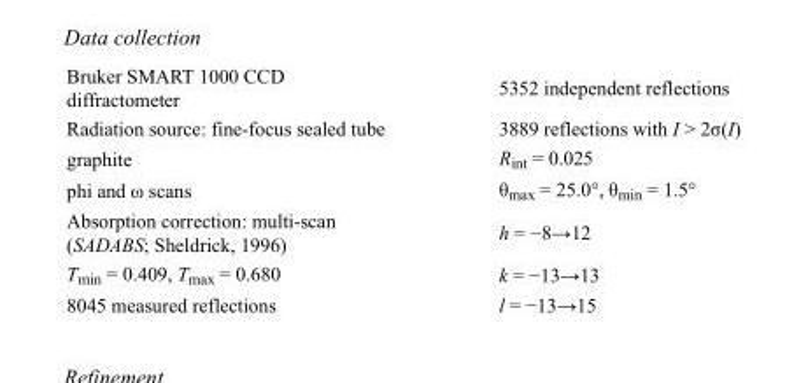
<table><tbody><tr><td>Bruker SMART 1000 CCD diffractometer</td><td>5352 independent reflections</td></tr><tr><td>Radiation source: fine-focus sealed tube</td><td>3889 reflections with I &gt; 2σ(I)</td></tr><tr><td>graphite</td><td>R<sub>int</sub> = 0.025</td></tr><tr><td>phi and ω scans</td><td>θ<sub>max</sub> = 25.0°, θ<sub>min</sub> = 1.5°</td></tr><tr><td>Absorption correction: multi-scan (SADABS; Sheldrick, 1996)</td><td>h = −8→12</td></tr><tr><td>T<sub>min</sub> = 0.409, T<sub>max</sub> = 0.680</td><td>k = −13→13</td></tr><tr><td>8045 measured reflections</td><td>l = −13→15</td></tr></tbody></table>